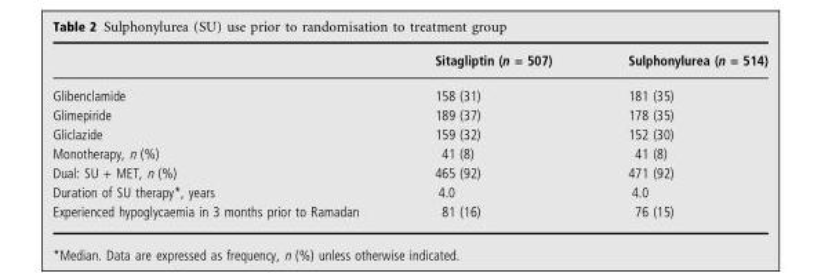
<table><thead><tr><td></td><td>Sitagliptin (n = 507)</td><td>Sulphonylurea (n = 514)</td></tr></thead><tbody><tr><td>Glibenclamide</td><td>158 (31)</td><td>181 (35)</td></tr><tr><td>Glimepiride</td><td>189 (37)</td><td>178 (35)</td></tr><tr><td>Gliclazide</td><td>159 (32)</td><td>152 (30)</td></tr><tr><td>Monotherapy, n (%)</td><td>41 (8)</td><td>41 (8)</td></tr><tr><td>Dual: SU + MET, n (%)</td><td>465 (92)</td><td>471 (92)</td></tr><tr><td>Duration of SU therapy*, years</td><td>4.0</td><td>4.0</td></tr><tr><td>Experienced hypoglycaemia in 3 months prior to Ramadan</td><td>81 (16)</td><td>76 (15)</td></tr></tbody></table>